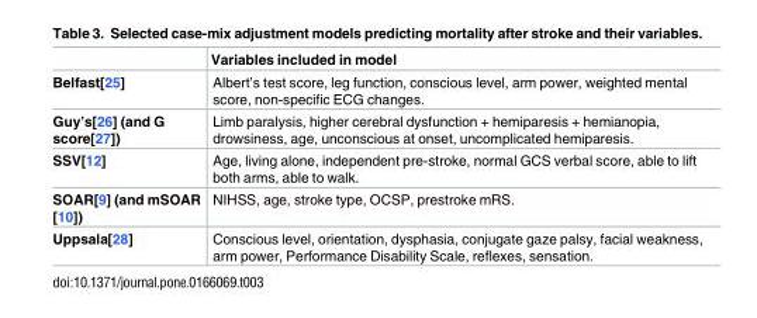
<table><thead><tr><td></td><td>Variables included in model</td></tr></thead><tbody><tr><td>Belfast[25]</td><td>Albert’s test score, leg function, conscious level, arm power, weighted mental score, non-specific ECG changes.</td></tr><tr><td>Guy’s[26] (and G score[27])</td><td>Limb paralysis, higher cerebral dysfunction + hemiparesis + hemianopia, drowsiness, age, unconscious at onset, uncomplicated hemiparesis.</td></tr><tr><td>SSV[12]</td><td>Age, living alone, independent pre-stroke, normal GCS verbal score, able to lift both arms, able to walk.</td></tr><tr><td>SOAR[9] (and mSOAR [10])</td><td>NIHSS, age, stroke type, OCSP, prestroke mRS.</td></tr><tr><td>Uppsala[28]</td><td>Conscious level, orientation, dysphasia, conjugate gaze palsy, facial weakness, arm power, Performance Disability Scale, reflexes, sensation.</td></tr></tbody></table>